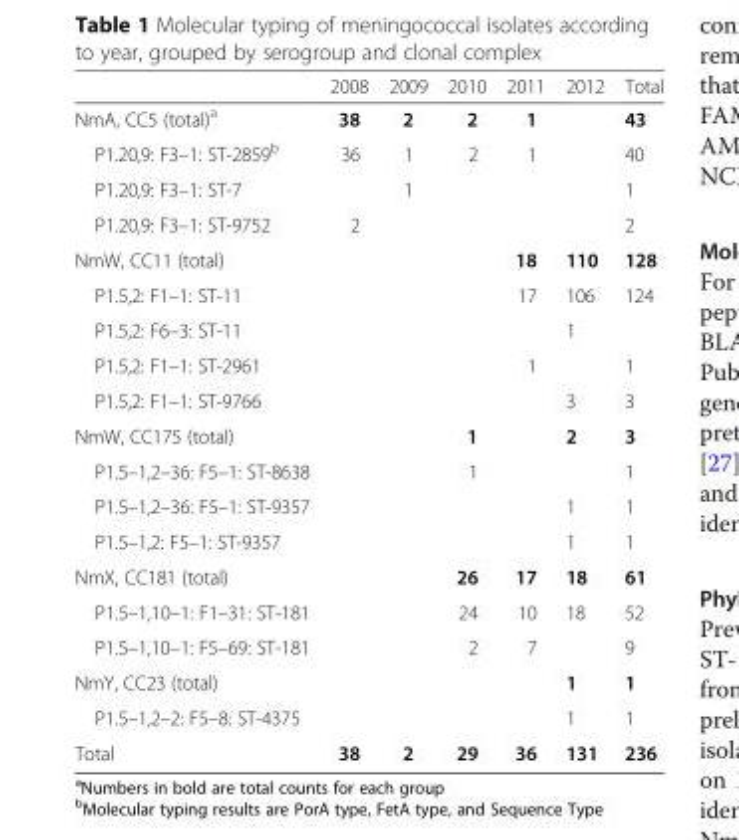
<table><thead><tr><td></td><td>2008</td><td>2009</td><td>2010</td><td>2011</td><td>2012</td><td>Total</td></tr></thead><tbody><tr><td>NmA, CC5 (total)<sup>a</sup></td><td>38</td><td>2</td><td>2</td><td>1</td><td></td><td>43</td></tr><tr><td>P1.20,9: F3–1: ST-2859<sup>b</sup></td><td>36</td><td>1</td><td>2</td><td>1</td><td></td><td>40</td></tr><tr><td>P1.20,9: F3–1: ST-7</td><td></td><td>1</td><td></td><td></td><td></td><td>1</td></tr><tr><td>P1.20,9: F3–1: ST-9752</td><td>2</td><td></td><td></td><td></td><td></td><td>2</td></tr><tr><td>NmW, CC11 (total)</td><td></td><td></td><td></td><td>18</td><td>110</td><td>128</td></tr><tr><td>P1.5,2: F1–1: ST-11</td><td></td><td></td><td></td><td>17</td><td>106</td><td>124</td></tr><tr><td>P1.5,2: F6–3: ST-11</td><td></td><td></td><td></td><td></td><td>1</td><td></td></tr><tr><td>P1.5,2: F1–1: ST-2961</td><td></td><td></td><td></td><td>1</td><td></td><td>1</td></tr><tr><td>P1.5,2: F1–1: ST-9766</td><td></td><td></td><td></td><td></td><td>3</td><td>3</td></tr><tr><td>NmW, CC175 (total)</td><td></td><td></td><td>1</td><td></td><td>2</td><td>3</td></tr><tr><td>P1.5–1,2–36: F5–1: ST-8638</td><td></td><td></td><td>1</td><td></td><td></td><td>1</td></tr><tr><td>P1.5–1,2–36: F5–1: ST-9357</td><td></td><td></td><td></td><td></td><td>1</td><td>1</td></tr><tr><td>P1.5–1,2: F5–1: ST-9357</td><td></td><td></td><td></td><td></td><td>1</td><td>1</td></tr><tr><td>NmX, CC181 (total)</td><td></td><td></td><td>26</td><td>17</td><td>18</td><td>61</td></tr><tr><td>P1.5–1,10–1: F1–31: ST-181</td><td></td><td></td><td>24</td><td>10</td><td>18</td><td>52</td></tr><tr><td>P1.5–1,10–1: F5–69: ST-181</td><td></td><td></td><td>2</td><td>7</td><td></td><td>9</td></tr><tr><td>NmY, CC23 (total)</td><td></td><td></td><td></td><td></td><td>1</td><td>1</td></tr><tr><td>P1.5–1,2–2: F5–8: ST-4375</td><td></td><td></td><td></td><td></td><td>1</td><td>1</td></tr><tr><td>Total</td><td>38</td><td>2</td><td>29</td><td>36</td><td>131</td><td>236</td></tr></tbody></table>